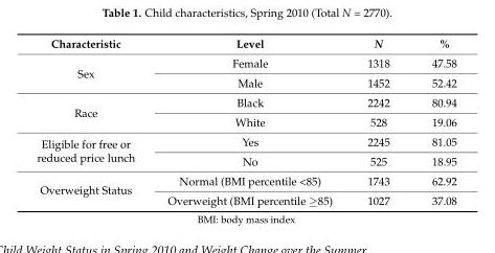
<table><thead><tr><td>Characteristic</td><td>Level</td><td>N</td><td>%</td></tr></thead><tbody><tr><td rowspan="2">Sex</td><td>Female</td><td>1318</td><td>47.58</td></tr><tr><td>Male</td><td>1452</td><td>52.42</td></tr><tr><td rowspan="2">Race</td><td>Black</td><td>2242</td><td>80.94</td></tr><tr><td>White</td><td>528</td><td>19.06</td></tr><tr><td rowspan="2">Eligible for free or reduced price lunch</td><td>Yes</td><td>2245</td><td>81.05</td></tr><tr><td>No</td><td>525</td><td>18.95</td></tr><tr><td rowspan="2">Overweight Status</td><td>Normal (BMI percentile &lt;85)</td><td>1743</td><td>62.92</td></tr><tr><td>Overweight (BMI percentile ≥85)</td><td>1027</td><td>37.08</td></tr></tbody></table>